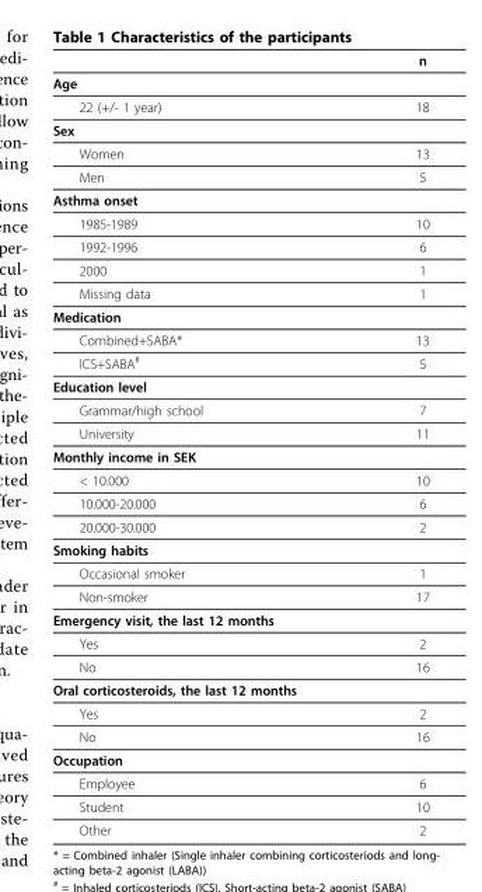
<table><thead><tr><td></td><td>n</td></tr></thead><tbody><tr><td colspan="2">Age</td></tr><tr><td>22 (+/- 1 year)</td><td>18</td></tr><tr><td colspan="2">Sex</td></tr><tr><td>Women</td><td>13</td></tr><tr><td>Men</td><td>5</td></tr><tr><td colspan="2">Asthma onset</td></tr><tr><td>1985-1989</td><td>10</td></tr><tr><td>1992-1996</td><td>6</td></tr><tr><td>2000</td><td>1</td></tr><tr><td>Missing data</td><td>1</td></tr><tr><td colspan="2">Medication</td></tr><tr><td>Combined+SABA*</td><td>13</td></tr><tr><td>ICS+SABA<sup>#</sup></td><td>5</td></tr><tr><td colspan="2">Education level</td></tr><tr><td>Grammar/high school</td><td>7</td></tr><tr><td>University</td><td>11</td></tr><tr><td colspan="2">Monthly income in SEK</td></tr><tr><td>&lt; 10.000</td><td>10</td></tr><tr><td>10.000-20.000</td><td>6</td></tr><tr><td>20.000-30.000</td><td>2</td></tr><tr><td colspan="2">Smoking habits</td></tr><tr><td>Occasional smoker</td><td>1</td></tr><tr><td>Non-smoker</td><td>17</td></tr><tr><td colspan="2">Emergency visit, the last 12 months</td></tr><tr><td>Yes</td><td>2</td></tr><tr><td>No</td><td>16</td></tr><tr><td colspan="2">Oral corticosteroids, the last 12 months</td></tr><tr><td>Yes</td><td>2</td></tr><tr><td>No</td><td>16</td></tr><tr><td colspan="2">Occupation</td></tr><tr><td>Employee</td><td>6</td></tr><tr><td>Student</td><td>10</td></tr><tr><td>Other</td><td>2</td></tr></tbody></table>